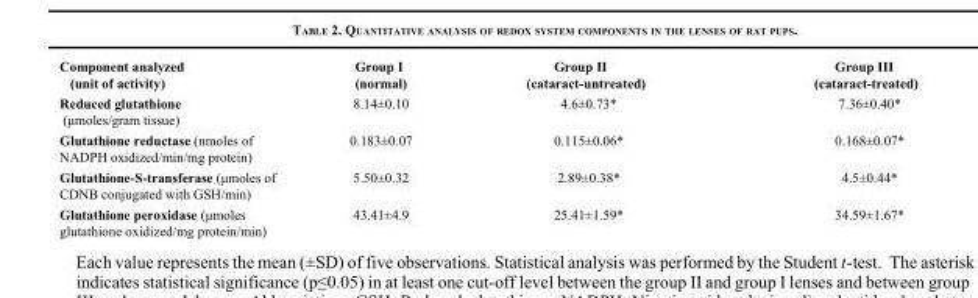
<table><thead><tr><td>Component analyzed (unit of activity)</td><td>Group I (normal)</td><td>Group II (cataract-untreated)</td><td>Group III (cataract-treated)</td></tr></thead><tbody><tr><td>Reduced glutathione (μmoles/gram tissue)</td><td>8.14±0.10</td><td>4.6±0.73*</td><td>7.36±0.40*</td></tr><tr><td>Glutathione reductase (nmoles of NADPH oxidized/min/mg protein)</td><td>0.183±0.07</td><td>0.115±0.06*</td><td>0.168±0.07*</td></tr><tr><td>Glutathione-S-transferase (μmoles of CDNB conjugated with GSH/min)</td><td>5.50±0.32</td><td>2.89±0.38*</td><td>4.5±0.44*</td></tr><tr><td>Glutathione peroxidase (μmoles glutathione oxidized/mg protein/min)</td><td>43.41±4.9</td><td>25.41±1.59*</td><td>34.59±1.67*</td></tr></tbody></table>